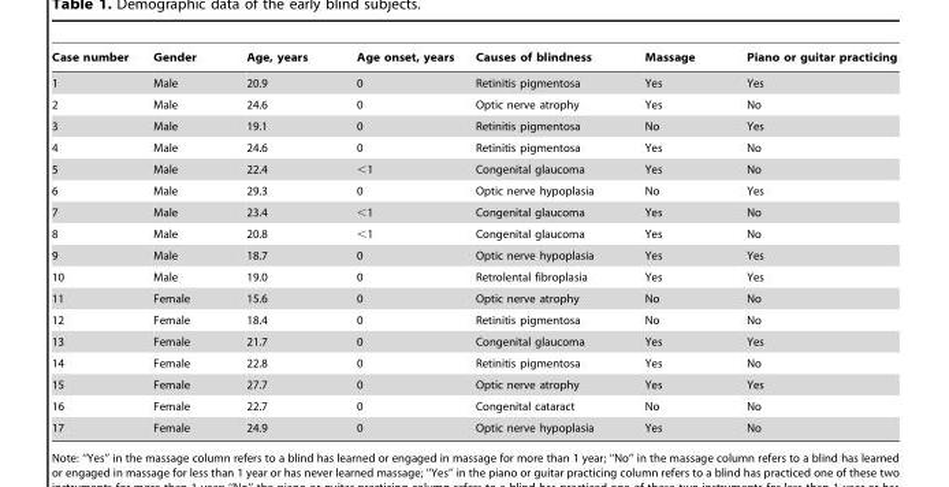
<table><thead><tr><td>Case number</td><td>Gender</td><td>Age, years</td><td>Age onset, years</td><td>Causes of blindness</td><td>Massage</td><td>Piano or guitar practicing</td></tr></thead><tbody><tr><td>1</td><td>Male</td><td>20.9</td><td>0</td><td>Retinitis pigmentosa</td><td>Yes</td><td>Yes</td></tr><tr><td>2</td><td>Male</td><td>24.6</td><td>0</td><td>Optic nerve atrophy</td><td>Yes</td><td>No</td></tr><tr><td>3</td><td>Male</td><td>19.1</td><td>0</td><td>Retinitis pigmentosa</td><td>No</td><td>Yes</td></tr><tr><td>4</td><td>Male</td><td>24.6</td><td>0</td><td>Retinitis pigmentosa</td><td>Yes</td><td>No</td></tr><tr><td>5</td><td>Male</td><td>22.4</td><td>&lt;1</td><td>Congenital glaucoma</td><td>Yes</td><td>No</td></tr><tr><td>6</td><td>Male</td><td>29.3</td><td>0</td><td>Optic nerve hypoplasia</td><td>No</td><td>Yes</td></tr><tr><td>7</td><td>Male</td><td>23.4</td><td>&lt;1</td><td>Congenital glaucoma</td><td>Yes</td><td>No</td></tr><tr><td>8</td><td>Male</td><td>20.8</td><td>&lt;1</td><td>Congenital glaucoma</td><td>Yes</td><td>No</td></tr><tr><td>9</td><td>Male</td><td>18.7</td><td>0</td><td>Optic nerve hypoplasia</td><td>Yes</td><td>Yes</td></tr><tr><td>10</td><td>Male</td><td>19.0</td><td>0</td><td>Retrolental fibroplasia</td><td>Yes</td><td>Yes</td></tr><tr><td>11</td><td>Female</td><td>15.6</td><td>0</td><td>Optic nerve atrophy</td><td>No</td><td>No</td></tr><tr><td>12</td><td>Female</td><td>18.4</td><td>0</td><td>Retinitis pigmentosa</td><td>No</td><td>No</td></tr><tr><td>13</td><td>Female</td><td>21.7</td><td>0</td><td>Congenital glaucoma</td><td>Yes</td><td>Yes</td></tr><tr><td>14</td><td>Female</td><td>22.8</td><td>0</td><td>Retinitis pigmentosa</td><td>Yes</td><td>No</td></tr><tr><td>15</td><td>Female</td><td>27.7</td><td>0</td><td>Optic nerve atrophy</td><td>Yes</td><td>Yes</td></tr><tr><td>16</td><td>Female</td><td>22.7</td><td>0</td><td>Congenital cataract</td><td>No</td><td>No</td></tr><tr><td>17</td><td>Female</td><td>24.9</td><td>0</td><td>Optic nerve hypoplasia</td><td>Yes</td><td>No</td></tr></tbody></table>